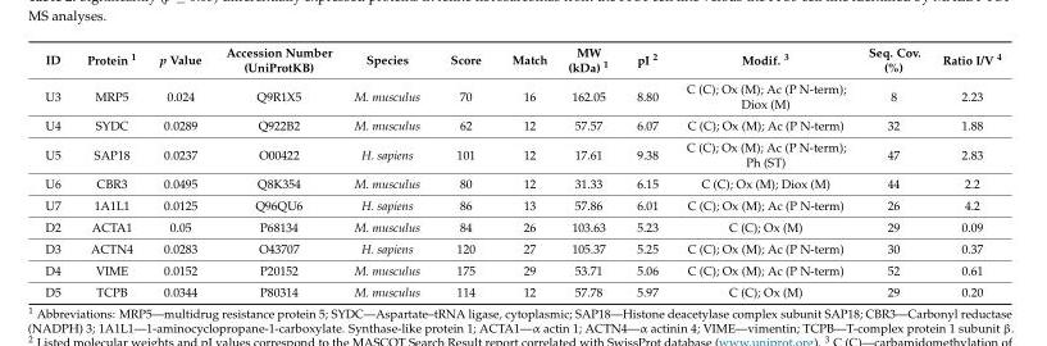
<table><thead><tr><td>ID</td><td>Protein <sup>1</sup></td><td>p Value</td><td>Accession Number (UniProtKB)</td><td>Species</td><td>Score</td><td>Match</td><td>MW (kDa) <sup>1</sup></td><td>pI <sup>2</sup></td><td>Modif. <sup>3</sup></td><td>Seq. Cov. (%)</td><td>Ratio I/V <sup>4</sup></td></tr></thead><tbody><tr><td>U3</td><td>MRP5</td><td>0.024</td><td>Q9R1X5</td><td>M. musculus</td><td>70</td><td>16</td><td>162.05</td><td>8.80</td><td>C (C); Ox (M); Ac (P N-term); Diox (M)</td><td>8</td><td>2.23</td></tr><tr><td>U4</td><td>SYDC</td><td>0.0289</td><td>Q922B2</td><td>M. musculus</td><td>62</td><td>12</td><td>57.57</td><td>6.07</td><td>C (C); Ox (M); Ac (P N-term)</td><td>32</td><td>1.88</td></tr><tr><td>U5</td><td>SAP18</td><td>0.0237</td><td>O00422</td><td>H. sapiens</td><td>101</td><td>12</td><td>17.61</td><td>9.38</td><td>C (C); Ox (M); Ac (P N-term); Ph (ST)</td><td>47</td><td>2.83</td></tr><tr><td>U6</td><td>CBR3</td><td>0.0495</td><td>Q8K354</td><td>M. musculus</td><td>80</td><td>12</td><td>31.33</td><td>6.15</td><td>C (C); Ox (M); Diox (M)</td><td>44</td><td>2.2</td></tr><tr><td>U7</td><td>1A1L1</td><td>0.0125</td><td>Q96QU6</td><td>H. sapiens</td><td>86</td><td>13</td><td>57.86</td><td>6.01</td><td>C (C); Ox (M); Ac (P N-term)</td><td>26</td><td>4.2</td></tr><tr><td>D2</td><td>ACTA1</td><td>0.05</td><td>P68134</td><td>M. musculus</td><td>84</td><td>26</td><td>103.63</td><td>5.23</td><td>C (C); Ox (M)</td><td>29</td><td>0.09</td></tr><tr><td>D3</td><td>ACTN4</td><td>0.0283</td><td>O43707</td><td>H. sapiens</td><td>120</td><td>27</td><td>105.37</td><td>5.25</td><td>C (C); Ox (M); Ac (P N-term)</td><td>30</td><td>0.37</td></tr><tr><td>D4</td><td>VIME</td><td>0.0152</td><td>P20152</td><td>M. musculus</td><td>175</td><td>29</td><td>53.71</td><td>5.06</td><td>C (C); Ox (M); Ac (P N-term)</td><td>52</td><td>0.61</td></tr><tr><td>D5</td><td>TCPB</td><td>0.0344</td><td>P80314</td><td>M. musculus</td><td>114</td><td>12</td><td>57.78</td><td>5.97</td><td>C (C); Ox (M)</td><td>29</td><td>0.20</td></tr></tbody></table>